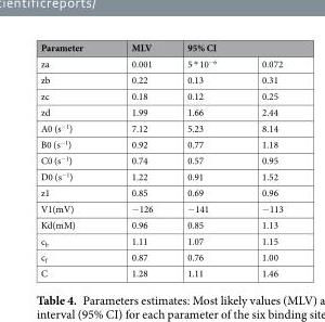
<table><thead><tr><td rowspan="2">Parameter za</td><td rowspan="2">MLV 0.001</td><td colspan="2">95% CI</td></tr><tr><td>5 * 10<sup>−6</sup></td><td>0.072</td></tr></thead><tbody><tr><td>zb</td><td>0.22</td><td>0.13</td><td>0.31</td></tr><tr><td>zc</td><td>0.18</td><td>0.12</td><td>0.25</td></tr><tr><td>zd</td><td>1.99</td><td>1.66</td><td>2.44</td></tr><tr><td>A0 (s<sup>−1</sup>)</td><td>7.12</td><td>5.23</td><td>8.14</td></tr><tr><td>B0 (s<sup>−1</sup>)</td><td>0.92</td><td>0.77</td><td>1.18</td></tr><tr><td>C0 (s<sup>−1</sup>)</td><td>0.74</td><td>0.57</td><td>0.95</td></tr><tr><td>D0 (s<sup>−1</sup>)</td><td>1.22</td><td>0.91</td><td>1.52</td></tr><tr><td>z1</td><td>0.85</td><td>0.69</td><td>0.96</td></tr><tr><td>V1(mV)</td><td>−126</td><td>−141</td><td>−113</td></tr><tr><td>Kd(mM)</td><td>0.96</td><td>0.85</td><td>1.13</td></tr><tr><td>c<sub>b</sub></td><td>1.11</td><td>1.07</td><td>1.15</td></tr><tr><td>c<sub>f</sub></td><td>0.87</td><td>0.76</td><td>1.00</td></tr><tr><td>C</td><td>1.28</td><td>1.11</td><td>1.46</td></tr></tbody></table>